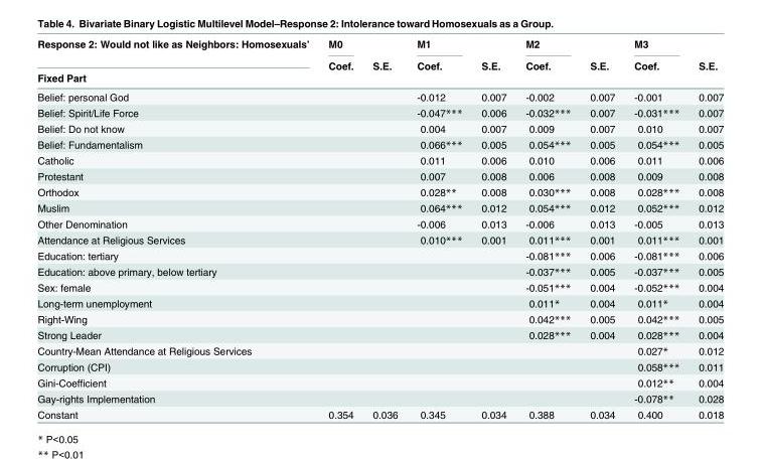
<table><thead><tr><td rowspan="3">Response 2: Would not like as Neighbors: Homosexuals’ Fixed Part</td><td rowspan="3">M0 Coef.</td><td rowspan="3">S.E.</td><td rowspan="3">M1 Coef.</td><td rowspan="3">S.E.</td><td rowspan="3">M2 Coef.</td><td rowspan="3">S.E.</td><td rowspan="3">M3 Coef.</td><td rowspan="3">S.E.</td></tr><tr></tr><tr></tr></thead><tbody><tr><td>Belief: personal God</td><td></td><td></td><td>-0.012</td><td>0.007</td><td>-0.002</td><td>0.007</td><td>-0.001</td><td>0.007</td></tr><tr><td>Belief: Spirit/Life Force</td><td></td><td></td><td>-0.047***</td><td>0.006</td><td>-0.032***</td><td>0.007</td><td>-0.031***</td><td>0.007</td></tr><tr><td>Belief: Do not know</td><td></td><td></td><td>0.004</td><td>0.007</td><td>0.009</td><td>0.007</td><td>0.010</td><td>0.007</td></tr><tr><td>Belief: Fundamentalism</td><td></td><td></td><td>0.066***</td><td>0.005</td><td>0.054***</td><td>0.005</td><td>0.054***</td><td>0.005</td></tr><tr><td>Catholic</td><td></td><td></td><td>0.011</td><td>0.006</td><td>0.010</td><td>0.006</td><td>0.011</td><td>0.006</td></tr><tr><td>Protestant</td><td></td><td></td><td>0.007</td><td>0.008</td><td>0.006</td><td>0.008</td><td>0.009</td><td>0.008</td></tr><tr><td>Orthodox</td><td></td><td></td><td>0.028**</td><td>0.008</td><td>0.030***</td><td>0.008</td><td>0.028***</td><td>0.008</td></tr><tr><td>Muslim</td><td></td><td></td><td>0.064***</td><td>0.012</td><td>0.054***</td><td>0.012</td><td>0.052***</td><td>0.012</td></tr><tr><td>Other Denomination</td><td></td><td></td><td>-0.006</td><td>0.013</td><td>-0.006</td><td>0.013</td><td>-0.005</td><td>0.013</td></tr><tr><td>Attendance at Religious Services</td><td></td><td></td><td>0.010***</td><td>0.001</td><td>0.011***</td><td>0.001</td><td>0.011***</td><td>0.001</td></tr><tr><td>Education: tertiary</td><td></td><td></td><td></td><td></td><td>-0.081***</td><td>0.006</td><td>-0.081***</td><td>0.006</td></tr><tr><td>Education: above primary, below tertiary</td><td></td><td></td><td></td><td></td><td>-0.037***</td><td>0.005</td><td>-0.037***</td><td>0.005</td></tr><tr><td>Sex: female</td><td></td><td></td><td></td><td></td><td>-0.051***</td><td>0.004</td><td>-0.052***</td><td>0.004</td></tr><tr><td>Long-term unemployment</td><td></td><td></td><td></td><td></td><td>0.011*</td><td>0.004</td><td>0.011*</td><td>0.004</td></tr><tr><td>Right-Wing</td><td></td><td></td><td></td><td></td><td>0.042***</td><td>0.005</td><td>0.042***</td><td>0.005</td></tr><tr><td>Strong Leader</td><td></td><td></td><td></td><td></td><td>0.028***</td><td>0.004</td><td>0.028***</td><td>0.004</td></tr><tr><td>Country-Mean Attendance at Religious Services</td><td></td><td></td><td></td><td></td><td></td><td></td><td>0.027*</td><td>0.012</td></tr><tr><td>Corruption (CPI)</td><td></td><td></td><td></td><td></td><td></td><td></td><td>0.058***</td><td>0.011</td></tr><tr><td>Gini-Coefficient</td><td></td><td></td><td></td><td></td><td></td><td></td><td>0.012**</td><td>0.004</td></tr><tr><td>Gay-rights Implementation</td><td></td><td></td><td></td><td></td><td></td><td></td><td>-0.078**</td><td>0.028</td></tr><tr><td>Constant</td><td>0.354</td><td>0.036</td><td>0.345</td><td>0.034</td><td>0.388</td><td>0.034</td><td>0.400</td><td>0.018</td></tr></tbody></table>